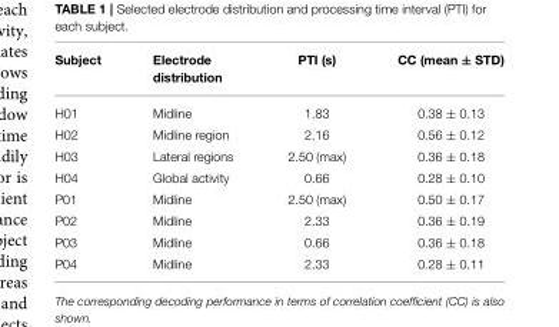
<table><thead><tr><td>Subject</td><td>Electrode distribution</td><td>PTI (s)</td><td>CC (mean ± STD)</td></tr></thead><tbody><tr><td>H01</td><td>Midline</td><td>1.83</td><td>0.38 ± 0.13</td></tr><tr><td>H02</td><td>Midline region</td><td>2.16</td><td>0.56 ± 0.12</td></tr><tr><td>H03</td><td>Lateral regions</td><td>2.50 (max)</td><td>0.36 ± 0.18</td></tr><tr><td>H04</td><td>Global activity</td><td>0.66</td><td>0.28 ± 0.10</td></tr><tr><td>P01</td><td>Midline</td><td>2.50 (max)</td><td>0.50 ± 0.17</td></tr><tr><td>P02</td><td>Midline</td><td>2.33</td><td>0.36 ± 0.19</td></tr><tr><td>P03</td><td>Midline</td><td>0.66</td><td>0.36 ± 0.18</td></tr><tr><td>P04</td><td>Midline</td><td>2.33</td><td>0.28 ± 0.11</td></tr></tbody></table>